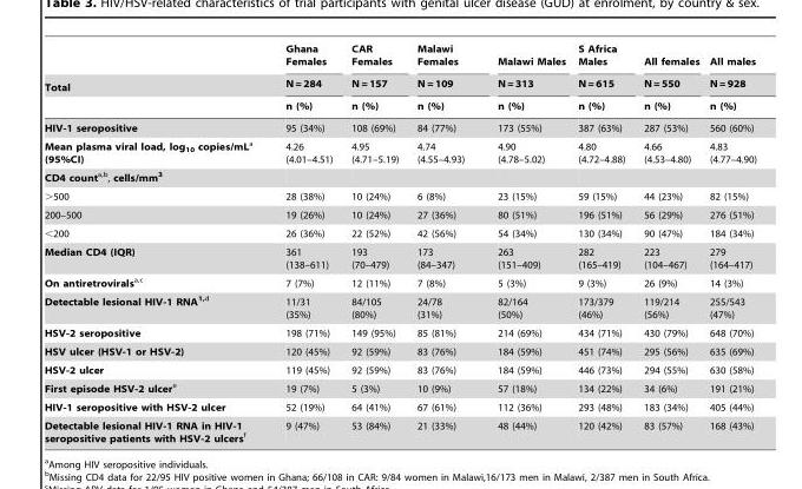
<table><thead><tr><td rowspan="3">Total</td><td rowspan="3">Ghana Females N = 284 n (%)</td><td rowspan="3">CAR Females N = 157 n (%)</td><td rowspan="3">Malawi Females N = 109 n (%)</td><td rowspan="3">Malawi Males N = 313 n (%)</td><td rowspan="3">S Africa Males N = 615 n (%)</td><td rowspan="3">All females N = 550 n (%)</td><td rowspan="3">All males N = 928 n (%)</td></tr><tr></tr><tr></tr></thead><tbody><tr><td>HIV-1 seropositive</td><td>95 (34%)</td><td>108 (69%)</td><td>84 (77%)</td><td>173 (55%)</td><td>387 (63%)</td><td>287 (53%)</td><td>560 (60%)</td></tr><tr><td>Mean plasma viral load, log<sub>10</sub> copies/mLa (95%CI)</td><td>4.26 (4.01–4.51)</td><td>4.95 (4.71–5.19)</td><td>4.74 (4.55–4.93)</td><td>4.90 (4.78–5.02)</td><td>4.80 (4.72–4.88)</td><td>4.66 (4.53–4.80)</td><td>4.83 (4.77–4.90)</td></tr><tr><td colspan="8">CD4 counta<sup>,</sup>b, cells/mm<sup>3</sup></td></tr><tr><td>&gt;500</td><td>28 (38%)</td><td>10 (24%)</td><td>6 (8%)</td><td>23 (15%)</td><td>59 (15%)</td><td>44 (23%)</td><td>82 (15%)</td></tr><tr><td>200–500</td><td>19 (26%)</td><td>10 (24%)</td><td>27 (36%)</td><td>80 (51%)</td><td>196 (51%)</td><td>56 (29%)</td><td>276 (51%)</td></tr><tr><td>&lt;200</td><td>26 (36%)</td><td>22 (52%)</td><td>42 (56%)</td><td>54 (34%)</td><td>130 (34%)</td><td>90 (47%)</td><td>184 (34%)</td></tr><tr><td>Median CD4 (IQR)</td><td>361 (138–611)</td><td>193 (70–479)</td><td>173 (84–347)</td><td>263 (151–409)</td><td>282 (165–419)</td><td>223 (104–467)</td><td>279 (164–417)</td></tr><tr><td>On antiretroviralsa<sup>,</sup>c</td><td>7 (7%)</td><td>12 (11%)</td><td>7 (8%)</td><td>5 (3%)</td><td>9 (3%)</td><td>26 (9%)</td><td>14 (3%)</td></tr><tr><td>Detectable lesional HIV-1 RNA<sup>1,</sup>d</td><td>11/31 (35%)</td><td>84/105 (80%)</td><td>24/78 (31%)</td><td>82/164 (50%)</td><td>173/379 (46%)</td><td>119/214 (56%)</td><td>255/543 (47%)</td></tr><tr><td>HSV-2 seropositive</td><td>198 (71%)</td><td>149 (95%)</td><td>85 (81%)</td><td>214 (69%)</td><td>434 (71%)</td><td>430 (79%)</td><td>648 (70%)</td></tr><tr><td>HSV ulcer (HSV-1 or HSV-2)</td><td>120 (45%)</td><td>92 (59%)</td><td>83 (76%)</td><td>184 (59%)</td><td>451 (74%)</td><td>295 (56%)</td><td>635 (69%)</td></tr><tr><td>HSV-2 ulcer</td><td>119 (45%)</td><td>92 (59%)</td><td>83 (76%)</td><td>184 (59%)</td><td>446 (73%)</td><td>294 (55%)</td><td>630 (58%)</td></tr><tr><td>First episode HSV-2 ulcere</td><td>19 (7%)</td><td>5 (3%)</td><td>10 (9%)</td><td>57 (18%)</td><td>134 (22%)</td><td>34 (6%)</td><td>191 (21%)</td></tr><tr><td>HIV-1 seropositive with HSV-2 ulcer</td><td>52 (19%)</td><td>64 (41%)</td><td>67 (61%)</td><td>112 (36%)</td><td>293 (48%)</td><td>183 (34%)</td><td>405 (44%)</td></tr><tr><td>Detectable lesional HIV-1 RNA in HIV-1 seropositive patients with HSV-2 ulcersf</td><td>9 (47%)</td><td>53 (84%)</td><td>21 (33%)</td><td>48 (44%)</td><td>120 (42%)</td><td>83 (57%)</td><td>168 (43%)</td></tr></tbody></table>